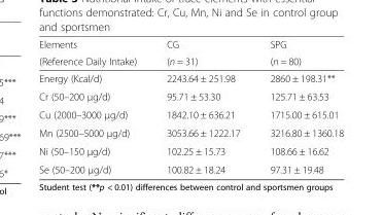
<table><thead><tr><td rowspan="2">Elements (Reference Daily Intake)</td><td rowspan="2">CG (n = 31)</td><td rowspan="2">SPG (n = 80)</td></tr><tr></tr></thead><tbody><tr><td>Energy (Kcal/d)</td><td>2243.64 ± 251.98</td><td>2860 ± 198.31**</td></tr><tr><td>Cr (50–200 μg/d)</td><td>95.71 ± 53.30</td><td>125.71 ± 63.53</td></tr><tr><td>Cu (2000–3000 μg/d)</td><td>1842.10 ± 636.21</td><td>1715.00 ± 615.01</td></tr><tr><td>Mn (2500–5000 μg/d)</td><td>3053.66 ± 1222.17</td><td>3216.80 ± 1360.18</td></tr><tr><td>Ni (50–150 μg/d)</td><td>102.25 ± 15.73</td><td>108.66 ± 16.62</td></tr><tr><td>Se (50–200 μg/d)</td><td>100.82 ± 18.24</td><td>97.31 ± 19.48</td></tr></tbody></table>